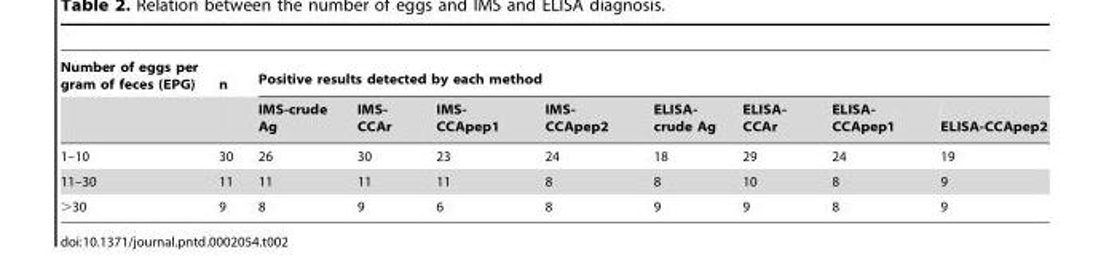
<table><thead><tr><td rowspan="2">Number of eggs per gram of feces (EPG)</td><td rowspan="2">n</td><td colspan="8">Positive results detected by each method</td></tr><tr><td>IMS-crude Ag</td><td>IMS- CCAr</td><td>IMS- CCApep1</td><td>IMS- CCApep2</td><td>ELISA- crude Ag</td><td>ELISA- CCAr</td><td>ELISA- CCApep1</td><td>ELISA-CCApep2</td></tr></thead><tbody><tr><td>1–10</td><td>30</td><td>26</td><td>30</td><td>23</td><td>24</td><td>18</td><td>29</td><td>24</td><td>19</td></tr><tr><td>11–30</td><td>11</td><td>11</td><td>11</td><td>11</td><td>8</td><td>8</td><td>10</td><td>8</td><td>9</td></tr><tr><td>&gt;30</td><td>9</td><td>8</td><td>9</td><td>6</td><td>8</td><td>9</td><td>9</td><td>8</td><td>9</td></tr></tbody></table>